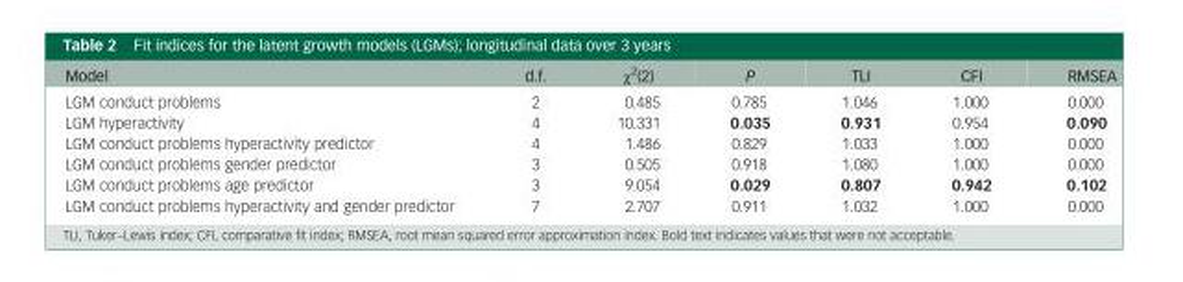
<table><thead><tr><td>Model</td><td>d.f.</td><td>χ<sup>2</sup>(2)</td><td>P</td><td>TLI</td><td>CFI</td><td>RMSEA</td></tr></thead><tbody><tr><td>LGM conduct problems</td><td>2</td><td>0.485</td><td>0.785</td><td>1.046</td><td>1.000</td><td>0.000</td></tr><tr><td>LGM hyperactivity</td><td>4</td><td>10.331</td><td>0.035</td><td>0.931</td><td>0.954</td><td>0.090</td></tr><tr><td>LGM conduct problems hyperactivity predictor</td><td>4</td><td>1.486</td><td>0.829</td><td>1.033</td><td>1.000</td><td>0.000</td></tr><tr><td>LGM conduct problems gender predictor</td><td>3</td><td>0.505</td><td>0.918</td><td>1.080</td><td>1.000</td><td>0.000</td></tr><tr><td>LGM conduct problems age predictor</td><td>3</td><td>9.054</td><td>0.029</td><td>0.807</td><td>0.942</td><td>0.102</td></tr><tr><td>LGM conduct problems hyperactivity and gender predictor</td><td>7</td><td>2.707</td><td>0.911</td><td>1.032</td><td>1.000</td><td>0.000</td></tr></tbody></table>